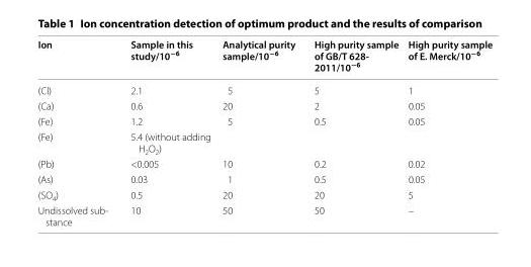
<table><thead><tr><td>Ion</td><td>Sample in this study/10<sup>−6</sup></td><td>Analytical purity sample/10<sup>−6</sup></td><td>High purity sample of GB/T 628‑ 2011/10<sup>−6</sup></td><td>High purity sample of E. Merck/10<sup>−6</sup></td></tr></thead><tbody><tr><td>(Cl)</td><td>2.1</td><td>5</td><td>5</td><td>1</td></tr><tr><td>(Ca)</td><td>0.6</td><td>20</td><td>2</td><td>0.05</td></tr><tr><td>(Fe)</td><td>1.2</td><td>5</td><td>0.5</td><td>0.05</td></tr><tr><td>(Fe)</td><td>5.4 (without adding H<sub>2</sub>O<sub>2</sub>)</td><td></td><td></td><td></td></tr><tr><td>(Pb)</td><td>&lt;0.005</td><td>10</td><td>0.2</td><td>0.02</td></tr><tr><td>(As)</td><td>0.03</td><td>1</td><td>0.5</td><td>0.05</td></tr><tr><td>(SO<sub>4</sub>)</td><td>0.5</td><td>20</td><td>20</td><td>5</td></tr><tr><td>Undissolved sub- stance</td><td>10</td><td>50</td><td>50</td><td>–</td></tr></tbody></table>